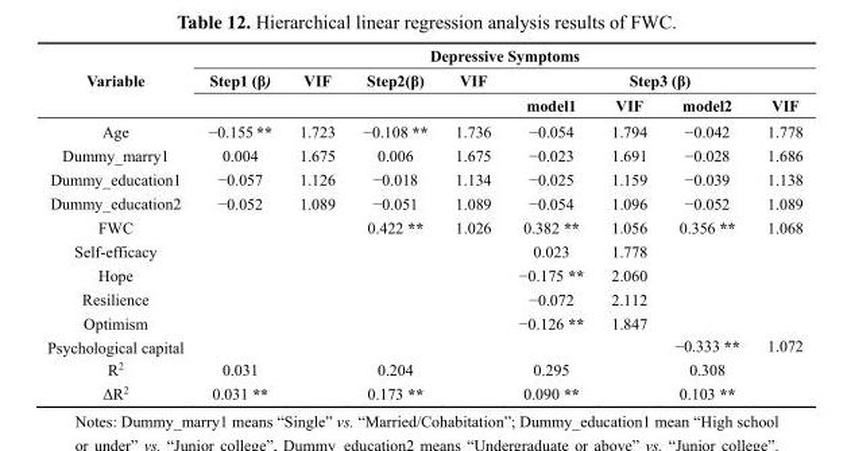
<table><thead><tr><td rowspan="3">Variable</td><td colspan="8">Depressive Symptoms</td></tr><tr><td rowspan="2">Step1 (β)</td><td rowspan="2">VIF</td><td rowspan="2">Step2(β)</td><td rowspan="2">VIF</td><td colspan="4">Step3 (β)</td></tr><tr><td>model1</td><td>VIF</td><td>model2</td><td>VIF</td></tr></thead><tbody><tr><td>Age</td><td>−0.155 **</td><td>1.723</td><td>−0.108 **</td><td>1.736</td><td>−0.054</td><td>1.794</td><td>−0.042</td><td>1.778</td></tr><tr><td>Dummy_marry1</td><td>0.004</td><td>1.675</td><td>0.006</td><td>1.675</td><td>−0.023</td><td>1.691</td><td>−0.028</td><td>1.686</td></tr><tr><td>Dummy_education1</td><td>−0.057</td><td>1.126</td><td>−0.018</td><td>1.134</td><td>−0.025</td><td>1.159</td><td>−0.039</td><td>1.138</td></tr><tr><td>Dummy_education2</td><td>−0.052</td><td>1.089</td><td>−0.051</td><td>1.089</td><td>−0.054</td><td>1.096</td><td>−0.052</td><td>1.089</td></tr><tr><td>FWC</td><td></td><td></td><td>0.422 **</td><td>1.026</td><td>0.382 **</td><td>1.056</td><td>0.356 **</td><td>1.068</td></tr><tr><td>Self-efficacy</td><td></td><td></td><td></td><td></td><td>0.023</td><td>1.778</td><td></td><td></td></tr><tr><td>Hope</td><td></td><td></td><td></td><td></td><td>−0.175 **</td><td>2.060</td><td></td><td></td></tr><tr><td>Resilience</td><td></td><td></td><td></td><td></td><td>−0.072</td><td>2.112</td><td></td><td></td></tr><tr><td>Optimism</td><td></td><td></td><td></td><td></td><td>−0.126 **</td><td>1.847</td><td></td><td></td></tr><tr><td>Psychological capital</td><td></td><td></td><td></td><td></td><td></td><td></td><td>−0.333 **</td><td>1.072</td></tr><tr><td>R<sup>2</sup></td><td>0.031</td><td></td><td>0.204</td><td></td><td>0.295</td><td></td><td>0.308</td><td></td></tr><tr><td>ΔR<sup>2</sup></td><td>0.031 **</td><td></td><td>0.173 **</td><td></td><td>0.090 **</td><td></td><td>0.103 **</td><td></td></tr></tbody></table>